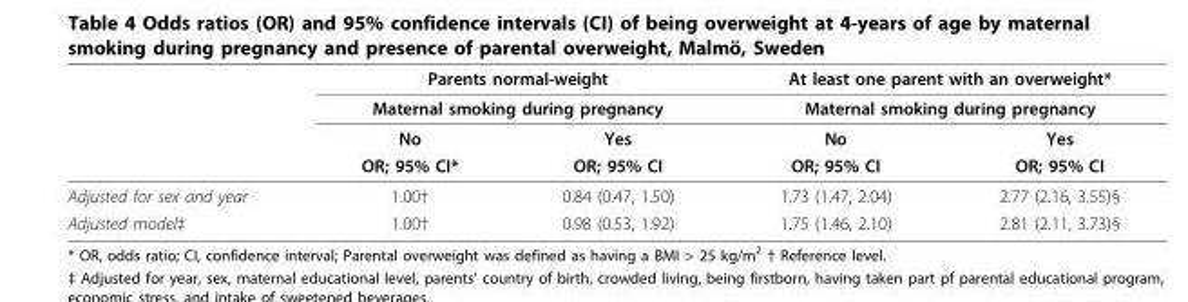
<table><thead><tr><td rowspan="4"></td><td rowspan="2" colspan="2">Parents normal-weight Maternal smoking during pregnancy</td><td rowspan="2" colspan="2">At least one parent with an overweight* Maternal smoking during pregnancy</td></tr><tr></tr><tr><td rowspan="2">No OR; 95% CI*</td><td rowspan="2">Yes OR; 95% CI</td><td rowspan="2">No OR; 95% CI</td><td rowspan="2">Yes OR; 95% CI</td></tr><tr></tr></thead><tbody><tr><td>Adjusted for sex and year</td><td>1.00†</td><td>0.84 (0.47, 1.50)</td><td>1.73 (1.47, 2.04)</td><td>2.77 (2.16, 3.55)§</td></tr><tr><td>Adjusted model‡</td><td>1.00†</td><td>0.98 (0.53, 1.92)</td><td>1.75 (1.46, 2.10)</td><td>2.81 (2.11, 3.73)§</td></tr></tbody></table>